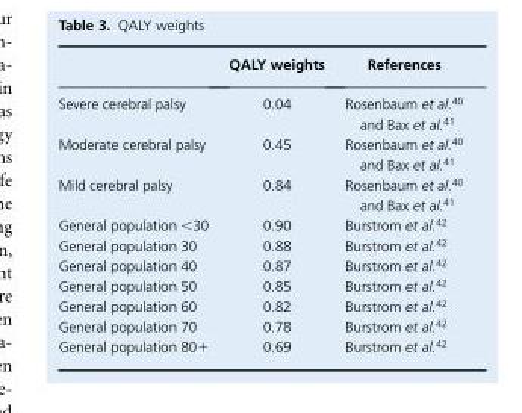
<table><thead><tr><td></td><td>QALY weights</td><td>References</td></tr></thead><tbody><tr><td>Severe cerebral palsy</td><td>0.04</td><td>Rosenbaum et al.<sup>40</sup> and Bax et al.<sup>41</sup></td></tr><tr><td>Moderate cerebral palsy</td><td>0.45</td><td>Rosenbaum et al.<sup>40</sup> and Bax et al.<sup>41</sup></td></tr><tr><td>Mild cerebral palsy</td><td>0.84</td><td>Rosenbaum et al.<sup>40</sup> and Bax et al.<sup>41</sup></td></tr><tr><td>General population &lt;30</td><td>0.90</td><td>Burstrom et al.<sup>42</sup></td></tr><tr><td>General population 30</td><td>0.88</td><td>Burstrom et al.<sup>42</sup></td></tr><tr><td>General population 40</td><td>0.87</td><td>Burstrom et al.<sup>42</sup></td></tr><tr><td>General population 50</td><td>0.85</td><td>Burstrom et al.<sup>42</sup></td></tr><tr><td>General population 60</td><td>0.82</td><td>Burstrom et al.<sup>42</sup></td></tr><tr><td>General population 70</td><td>0.78</td><td>Burstrom et al.<sup>42</sup></td></tr><tr><td>General population 80+</td><td>0.69</td><td>Burstrom et al.<sup>42</sup></td></tr></tbody></table>